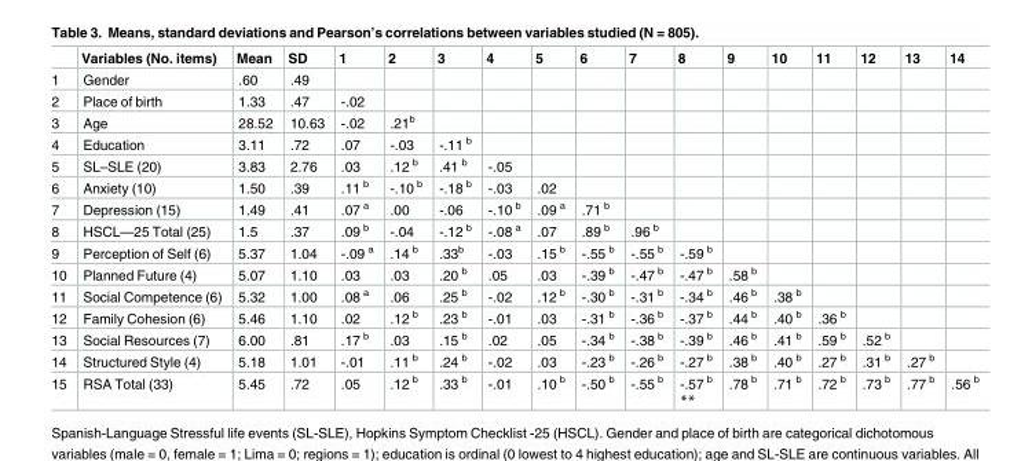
<table><thead><tr><td></td><td>Variables (No. items)</td><td>Mean</td><td>SD</td><td>1</td><td>2</td><td>3</td><td>4</td><td>5</td><td>6</td><td>7</td><td>8</td><td>9</td><td>10</td><td>11</td><td>12</td><td>13</td><td>14</td></tr></thead><tbody><tr><td>1</td><td>Gender</td><td>.60</td><td>.49</td><td></td><td></td><td></td><td></td><td></td><td></td><td></td><td></td><td></td><td></td><td></td><td></td><td></td><td></td></tr><tr><td>2</td><td>Place of birth</td><td>1.33</td><td>.47</td><td>-.02</td><td></td><td></td><td></td><td></td><td></td><td></td><td></td><td></td><td></td><td></td><td></td><td></td><td></td></tr><tr><td>3</td><td>Age</td><td>28.52</td><td>10.63</td><td>-.02</td><td>.21<sup>b</sup></td><td></td><td></td><td></td><td></td><td></td><td></td><td></td><td></td><td></td><td></td><td></td><td></td></tr><tr><td>4</td><td>Education</td><td>3.11</td><td>.72</td><td>.07</td><td>-.03</td><td>-.11 <sup>b</sup></td><td></td><td></td><td></td><td></td><td></td><td></td><td></td><td></td><td></td><td></td><td></td></tr><tr><td>5</td><td>SL–SLE (20)</td><td>3.83</td><td>2.76</td><td>.03</td><td>.12 <sup>b</sup></td><td>.41 <sup>b</sup></td><td>-.05</td><td></td><td></td><td></td><td></td><td></td><td></td><td></td><td></td><td></td><td></td></tr><tr><td>6</td><td>Anxiety (10)</td><td>1.50</td><td>.39</td><td>.11 <sup>b</sup></td><td>-.10 <sup>b</sup></td><td>-.18 <sup>b</sup></td><td>-.03</td><td>.02</td><td></td><td></td><td></td><td></td><td></td><td></td><td></td><td></td><td></td></tr><tr><td>7</td><td>Depression (15)</td><td>1.49</td><td>.41</td><td>.07 <sup>a</sup></td><td>.00</td><td>-.06</td><td>-.10 <sup>b</sup></td><td>.09 <sup>a</sup></td><td>.71 <sup>b</sup></td><td></td><td></td><td></td><td></td><td></td><td></td><td></td><td></td></tr><tr><td>8</td><td>HSCL—25 Total (25)</td><td>1.5</td><td>.37</td><td>.09 <sup>b</sup></td><td>-.04</td><td>-.12 <sup>b</sup></td><td>-.08 <sup>a</sup></td><td>.07</td><td>.89 <sup>b</sup></td><td>.96 <sup>b</sup></td><td></td><td></td><td></td><td></td><td></td><td></td><td></td></tr><tr><td>9</td><td>Perception of Self (6)</td><td>5.37</td><td>1.04</td><td>-.09 <sup>a</sup></td><td>.14 <sup>b</sup></td><td>.33<sup>b</sup></td><td>-.03</td><td>.15 <sup>b</sup></td><td>-.55 <sup>b</sup></td><td>-.55 <sup>b</sup></td><td>-.59 <sup>b</sup></td><td></td><td></td><td></td><td></td><td></td><td></td></tr><tr><td>10</td><td>Planned Future (4)</td><td>5.07</td><td>1.10</td><td>.03</td><td>.03</td><td>.20 <sup>b</sup></td><td>.05</td><td>.03</td><td>-.39 <sup>b</sup></td><td>-.47 <sup>b</sup></td><td>-.47 <sup>b</sup></td><td>.58 <sup>b</sup></td><td></td><td></td><td></td><td></td><td></td></tr><tr><td>11</td><td>Social Competence (6)</td><td>5.32</td><td>1.00</td><td>.08 <sup>a</sup></td><td>.06</td><td>.25 <sup>b</sup></td><td>-.02</td><td>.12 <sup>b</sup></td><td>-.30 <sup>b</sup></td><td>-.31 <sup>b</sup></td><td>-.34 <sup>b</sup></td><td>.46 <sup>b</sup></td><td>.38 <sup>b</sup></td><td></td><td></td><td></td><td></td></tr><tr><td>12</td><td>Family Cohesion (6)</td><td>5.46</td><td>1.10</td><td>.02</td><td>.12 <sup>b</sup></td><td>.23 <sup>b</sup></td><td>-.01</td><td>.03</td><td>-.31 <sup>b</sup></td><td>-.36 <sup>b</sup></td><td>-.37 <sup>b</sup></td><td>.44 <sup>b</sup></td><td>.40 <sup>b</sup></td><td>.36 <sup>b</sup></td><td></td><td></td><td></td></tr><tr><td>13</td><td>Social Resources (7)</td><td>6.00</td><td>.81</td><td>.17 <sup>b</sup></td><td>.03</td><td>.15 <sup>b</sup></td><td>.02</td><td>.05</td><td>-.34 <sup>b</sup></td><td>-.38 <sup>b</sup></td><td>-.39 <sup>b</sup></td><td>.46 <sup>b</sup></td><td>.41 <sup>b</sup></td><td>.59 <sup>b</sup></td><td>.52 <sup>b</sup></td><td></td><td></td></tr><tr><td>14</td><td>Structured Style (4)</td><td>5.18</td><td>1.01</td><td>-.01</td><td>.11 <sup>b</sup></td><td>.24 <sup>b</sup></td><td>-.02</td><td>.03</td><td>-.23 <sup>b</sup></td><td>-.26 <sup>b</sup></td><td>-.27 <sup>b</sup></td><td>.38 <sup>b</sup></td><td>.40 <sup>b</sup></td><td>.27 <sup>b</sup></td><td>.31 <sup>b</sup></td><td>.27 <sup>b</sup></td><td></td></tr><tr><td>15</td><td>RSA Total (33)</td><td>5.45</td><td>.72</td><td>.05</td><td>.12 <sup>b</sup></td><td>.33 <sup>b</sup></td><td>-.01</td><td>.10 <sup>b</sup></td><td>-.50 <sup>b</sup></td><td>-.55 <sup>b</sup></td><td>-.57 <sup>b</sup> **</td><td>.78 <sup>b</sup></td><td>.71 <sup>b</sup></td><td>.72 <sup>b</sup></td><td>.73 <sup>b</sup></td><td>.77 <sup>b</sup></td><td>.56 <sup>b</sup></td></tr></tbody></table>